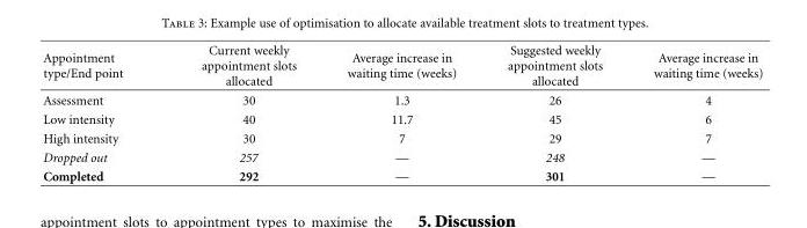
<table><thead><tr><td>Appointment type/End point</td><td>Current weekly appointment slots allocated</td><td>Average increase in waiting time (weeks)</td><td>Suggested weekly appointment slots allocated</td><td>Average increase in waiting time (weeks)</td></tr></thead><tbody><tr><td>Assessment</td><td>30</td><td>1.3</td><td>26</td><td>4</td></tr><tr><td>Low intensity</td><td>40</td><td>11.7</td><td>45</td><td>6</td></tr><tr><td>High intensity</td><td>30</td><td>7</td><td>29</td><td>7</td></tr><tr><td>Dropped out</td><td>257</td><td>—</td><td>248</td><td>—</td></tr><tr><td>Completed</td><td>292</td><td>—</td><td>301</td><td>—</td></tr></tbody></table>